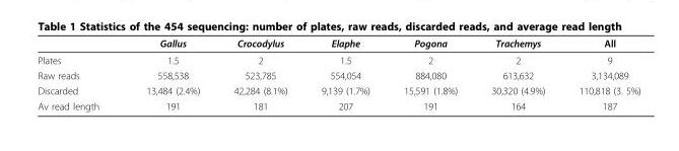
<table><thead><tr><td></td><td>Gallus</td><td>Crocodylus</td><td>Elaphe</td><td>Pogona</td><td>Trachemys</td><td>All</td></tr></thead><tbody><tr><td>Plates</td><td>1.5</td><td>2</td><td>1.5</td><td>2</td><td>2</td><td>9</td></tr><tr><td>Raw reads</td><td>558,538</td><td>523,785</td><td>554,054</td><td>884,080</td><td>613,632</td><td>3,134,089</td></tr><tr><td>Discarded</td><td>13,484 (2.4%)</td><td>42,284 (8.1%)</td><td>9,139 (1.7%)</td><td>15,591 (1.8%)</td><td>30,320 (4.9%)</td><td>110,818 (3. 5%)</td></tr><tr><td>Av read length</td><td>191</td><td>181</td><td>207</td><td>191</td><td>164</td><td>187</td></tr></tbody></table>